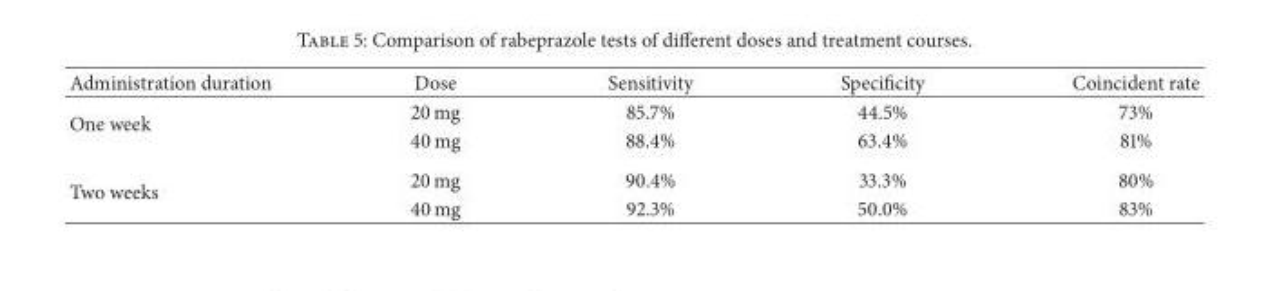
<table><thead><tr><td>Administration duration</td><td>Dose</td><td>Sensitivity</td><td>Specificity</td><td>Coincident rate</td></tr></thead><tbody><tr><td rowspan="2">One week</td><td>20 mg</td><td>85.7%</td><td>44.5%</td><td>73%</td></tr><tr><td>40 mg</td><td>88.4%</td><td>63.4%</td><td>81%</td></tr><tr><td rowspan="2">Two weeks</td><td>20 mg</td><td>90.4%</td><td>33.3%</td><td>80%</td></tr><tr><td>40 mg</td><td>92.3%</td><td>50.0%</td><td>83%</td></tr></tbody></table>